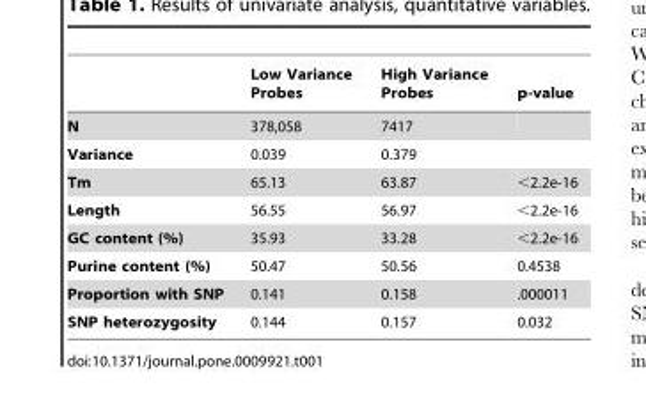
<table><thead><tr><td></td><td>Low Variance Probes</td><td>High Variance Probes</td><td>p-value</td></tr></thead><tbody><tr><td>N</td><td>378,058</td><td>7417</td><td></td></tr><tr><td>Variance</td><td>0.039</td><td>0.379</td><td></td></tr><tr><td>Tm</td><td>65.13</td><td>63.87</td><td>&lt;2.2e-16</td></tr><tr><td>Length</td><td>56.55</td><td>56.97</td><td>&lt;2.2e-16</td></tr><tr><td>GC content (%)</td><td>35.93</td><td>33.28</td><td>&lt;2.2e-16</td></tr><tr><td>Purine content (%)</td><td>50.47</td><td>50.56</td><td>0.4538</td></tr><tr><td>Proportion with SNP</td><td>0.141</td><td>0.158</td><td>.000011</td></tr><tr><td>SNP heterozygosity</td><td>0.144</td><td>0.157</td><td>0.032</td></tr></tbody></table>